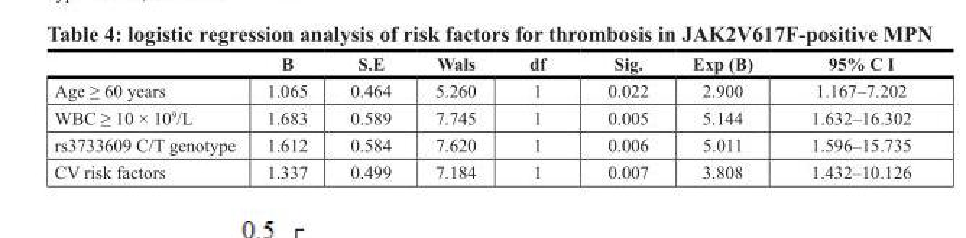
<table><thead><tr><td></td><td>B</td><td>S.E</td><td>Wals</td><td>df</td><td>Sig.</td><td>Exp (B)</td><td>95% C I</td></tr></thead><tbody><tr><td>Age ≥ 60 years</td><td>1.065</td><td>0.464</td><td>5.260</td><td>1</td><td>0.022</td><td>2.900</td><td>1.167–7.202</td></tr><tr><td>WBC ≥ 10 × 10<sup>9</sup>/L</td><td>1.683</td><td>0.589</td><td>7.745</td><td>1</td><td>0.005</td><td>5.144</td><td>1.632–16.302</td></tr><tr><td>rs3733609 C/T genotype</td><td>1.612</td><td>0.584</td><td>7.620</td><td>1</td><td>0.006</td><td>5.011</td><td>1.596–15.735</td></tr><tr><td>CV risk factors</td><td>1.337</td><td>0.499</td><td>7.184</td><td>1</td><td>0.007</td><td>3.808</td><td>1.432–10.126</td></tr></tbody></table>